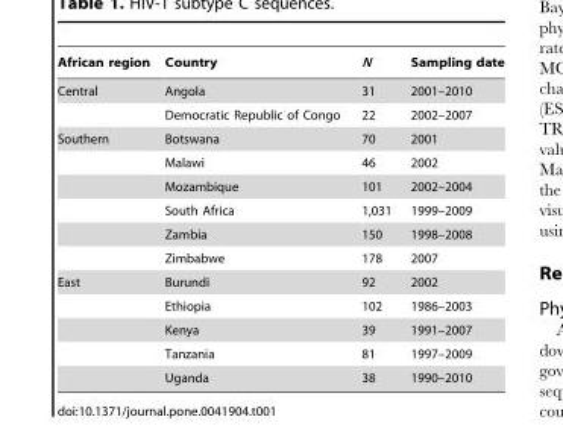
<table><thead><tr><td>African region</td><td>Country</td><td>N</td><td>Sampling date</td></tr></thead><tbody><tr><td rowspan="2">Central</td><td>Angola</td><td>31</td><td>2001–2010</td></tr><tr><td>Democratic Republic of Congo</td><td>22</td><td>2002–2007</td></tr><tr><td rowspan="6">Southern</td><td>Botswana</td><td>70</td><td>2001</td></tr><tr><td>Malawi</td><td>46</td><td>2002</td></tr><tr><td>Mozambique</td><td>101</td><td>2002–2004</td></tr><tr><td>South Africa</td><td>1,031</td><td>1999–2009</td></tr><tr><td>Zambia</td><td>150</td><td>1998–2008</td></tr><tr><td>Zimbabwe</td><td>178</td><td>2007</td></tr><tr><td rowspan="5">East</td><td>Burundi</td><td>92</td><td>2002</td></tr><tr><td>Ethiopia</td><td>102</td><td>1986–2003</td></tr><tr><td>Kenya</td><td>39</td><td>1991–2007</td></tr><tr><td>Tanzania</td><td>81</td><td>1997–2009</td></tr><tr><td>Uganda</td><td>38</td><td>1990–2010</td></tr></tbody></table>